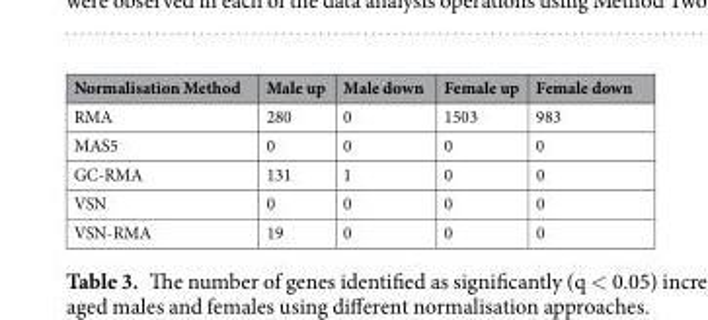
<table><thead><tr><td>Normalisation Method</td><td>Male up</td><td>Male down</td><td>Female up</td><td>Female down</td></tr></thead><tbody><tr><td>RMA</td><td>280</td><td>0</td><td>1503</td><td>983</td></tr><tr><td>MAS5</td><td>0</td><td>0</td><td>0</td><td>0</td></tr><tr><td>GC-RMA</td><td>131</td><td>1</td><td>0</td><td>0</td></tr><tr><td>VSN</td><td>0</td><td>0</td><td>0</td><td>0</td></tr><tr><td>VSN-RMA</td><td>19</td><td>0</td><td>0</td><td>0</td></tr></tbody></table>